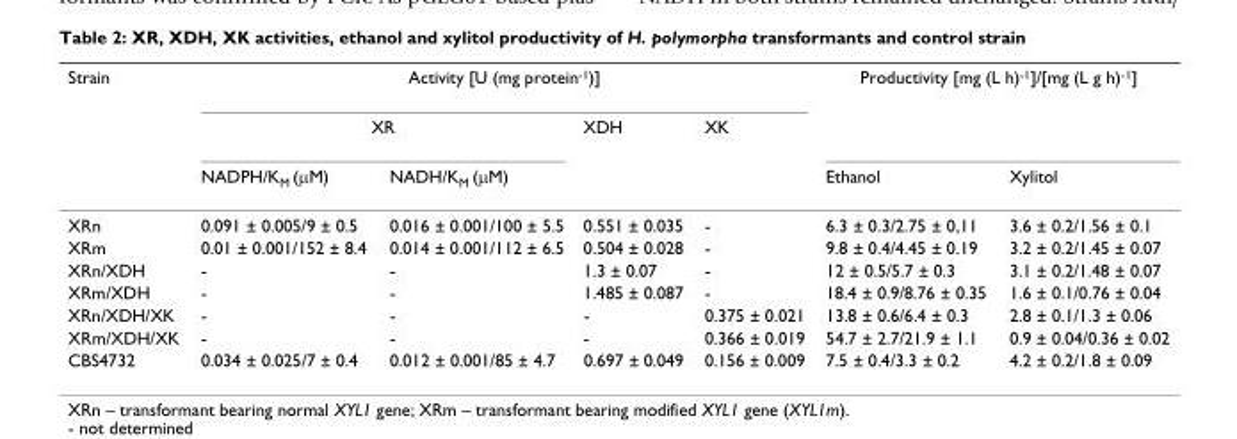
<table><thead><tr><td rowspan="3">Strain</td><td colspan="4">Activity [U (mg protein<sup>-1</sup>)]</td><td colspan="2">Productivity [mg (L h)<sup>-1</sup>]/[mg (L g h)<sup>-1</sup>]</td></tr><tr><td colspan="2">XR</td><td rowspan="2">XDH</td><td rowspan="2">XK</td><td rowspan="2">Ethanol</td><td rowspan="2">Xylitol</td></tr><tr><td>NADPH/K<sub>M</sub> (μM)</td><td>NADH/K<sub>M</sub> (μM)</td></tr></thead><tbody><tr><td>XRn</td><td>0.091 ± 0.005/9 ± 0.5</td><td>0.016 ± 0.001/100 ± 5.5</td><td>0.551 ± 0.035</td><td>-</td><td>6.3 ± 0.3/2.75 ± 0,11</td><td>3.6 ± 0.2/1.56 ± 0.1</td></tr><tr><td>XRm</td><td>0.01 ± 0.001/152 ± 8.4</td><td>0.014 ± 0.001/112 ± 6.5</td><td>0.504 ± 0.028</td><td>-</td><td>9.8 ± 0.4/4.45 ± 0.19</td><td>3.2 ± 0.2/1.45 ± 0.07</td></tr><tr><td>XRn/XDH</td><td>-</td><td>-</td><td>1.3 ± 0.07</td><td>-</td><td>12 ± 0.5/5.7 ± 0.3</td><td>3.1 ± 0.2/1.48 ± 0.07</td></tr><tr><td>XRm/XDH</td><td>-</td><td>-</td><td>1.485 ± 0.087</td><td>-</td><td>18.4 ± 0.9/8.76 ± 0.35</td><td>1.6 ± 0.1/0.76 ± 0.04</td></tr><tr><td>XRn/XDH/XK</td><td>-</td><td>-</td><td>-</td><td>0.375 ± 0.021</td><td>13.8 ± 0.6/6.4 ± 0.3</td><td>2.8 ± 0.1/1.3 ± 0.06</td></tr><tr><td>XRm/XDH/XK</td><td>-</td><td>-</td><td>-</td><td>0.366 ± 0.019</td><td>54.7 ± 2.7/21.9 ± 1.1</td><td>0.9 ± 0.04/0.36 ± 0.02</td></tr><tr><td>CBS4732</td><td>0.034 ± 0.025/7 ± 0.4</td><td>0.012 ± 0.001/85 ± 4.7</td><td>0.697 ± 0.049</td><td>0.156 ± 0.009</td><td>7.5 ± 0.4/3.3 ± 0.2</td><td>4.2 ± 0.2/1.8 ± 0.09</td></tr></tbody></table>